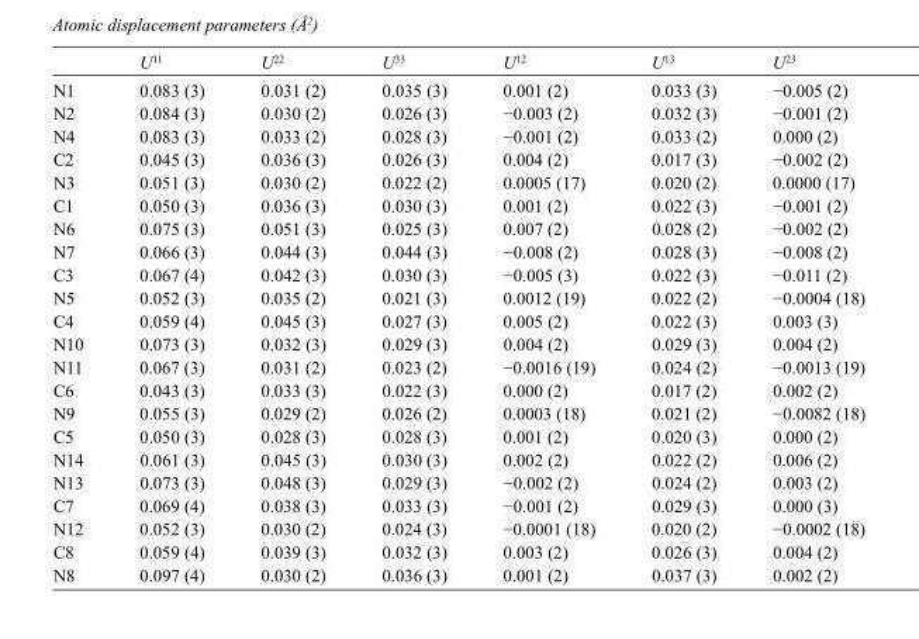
<table><thead><tr><td></td><td>U<sup>11</sup></td><td>U<sup>22</sup></td><td>U<sup>33</sup></td><td>U<sup>12</sup></td><td>U<sup>13</sup></td><td>U<sup>23</sup></td></tr></thead><tbody><tr><td>N1</td><td>0.083 (3)</td><td>0.031 (2)</td><td>0.035 (3)</td><td>0.001 (2)</td><td>0.033 (3)</td><td>−0.005 (2)</td></tr><tr><td>N2</td><td>0.084 (3)</td><td>0.030 (2)</td><td>0.026 (3)</td><td>−0.003 (2)</td><td>0.032 (3)</td><td>−0.001 (2)</td></tr><tr><td>N4</td><td>0.083 (3)</td><td>0.033 (2)</td><td>0.028 (3)</td><td>−0.001 (2)</td><td>0.033 (2)</td><td>0.000 (2)</td></tr><tr><td>C2</td><td>0.045 (3)</td><td>0.036 (3)</td><td>0.026 (3)</td><td>0.004 (2)</td><td>0.017 (3)</td><td>−0.002 (2)</td></tr><tr><td>N3</td><td>0.051 (3)</td><td>0.030 (2)</td><td>0.022 (2)</td><td>0.0005 (17)</td><td>0.020 (2)</td><td>0.0000 (17)</td></tr><tr><td>C1</td><td>0.050 (3)</td><td>0.036 (3)</td><td>0.030 (3)</td><td>0.001 (2)</td><td>0.022 (3)</td><td>−0.001 (2)</td></tr><tr><td>N6</td><td>0.075 (3)</td><td>0.051 (3)</td><td>0.025 (3)</td><td>0.007 (2)</td><td>0.028 (2)</td><td>−0.002 (2)</td></tr><tr><td>N7</td><td>0.066 (3)</td><td>0.044 (3)</td><td>0.044 (3)</td><td>−0.008 (2)</td><td>0.028 (3)</td><td>−0.008 (2)</td></tr><tr><td>C3</td><td>0.067 (4)</td><td>0.042 (3)</td><td>0.030 (3)</td><td>−0.005 (3)</td><td>0.022 (3)</td><td>−0.011 (2)</td></tr><tr><td>N5</td><td>0.052 (3)</td><td>0.035 (2)</td><td>0.021 (3)</td><td>0.0012 (19)</td><td>0.022 (2)</td><td>−0.0004 (18)</td></tr><tr><td>C4</td><td>0.059 (4)</td><td>0.045 (3)</td><td>0.027 (3)</td><td>0.005 (2)</td><td>0.022 (3)</td><td>0.003 (3)</td></tr><tr><td>N10</td><td>0.073 (3)</td><td>0.032 (3)</td><td>0.029 (3)</td><td>0.004 (2)</td><td>0.029 (3)</td><td>0.004 (2)</td></tr><tr><td>N11</td><td>0.067 (3)</td><td>0.031 (2)</td><td>0.023 (2)</td><td>−0.0016 (19)</td><td>0.024 (2)</td><td>−0.0013 (19)</td></tr><tr><td>C6</td><td>0.043 (3)</td><td>0.033 (3)</td><td>0.022 (3)</td><td>0.000 (2)</td><td>0.017 (2)</td><td>0.002 (2)</td></tr><tr><td>N9</td><td>0.055 (3)</td><td>0.029 (2)</td><td>0.026 (2)</td><td>0.0003 (18)</td><td>0.021 (2)</td><td>−0.0082 (18)</td></tr><tr><td>C5</td><td>0.050 (3)</td><td>0.028 (3)</td><td>0.028 (3)</td><td>0.001 (2)</td><td>0.020 (3)</td><td>0.000 (2)</td></tr><tr><td>N14</td><td>0.061 (3)</td><td>0.045 (3)</td><td>0.030 (3)</td><td>0.002 (2)</td><td>0.022 (2)</td><td>0.006 (2)</td></tr><tr><td>N13</td><td>0.073 (3)</td><td>0.048 (3)</td><td>0.029 (3)</td><td>−0.002 (2)</td><td>0.024 (2)</td><td>0.003 (2)</td></tr><tr><td>C7</td><td>0.069 (4)</td><td>0.038 (3)</td><td>0.033 (3)</td><td>−0.001 (2)</td><td>0.029 (3)</td><td>0.000 (3)</td></tr><tr><td>N12</td><td>0.052 (3)</td><td>0.030 (2)</td><td>0.024 (3)</td><td>−0.0001 (18)</td><td>0.020 (2)</td><td>−0.0002 (18)</td></tr><tr><td>C8</td><td>0.059 (4)</td><td>0.039 (3)</td><td>0.032 (3)</td><td>0.003 (2)</td><td>0.026 (3)</td><td>0.004 (2)</td></tr><tr><td>N8</td><td>0.097 (4)</td><td>0.030 (2)</td><td>0.036 (3)</td><td>0.001 (2)</td><td>0.037 (3)</td><td>0.002 (2)</td></tr></tbody></table>